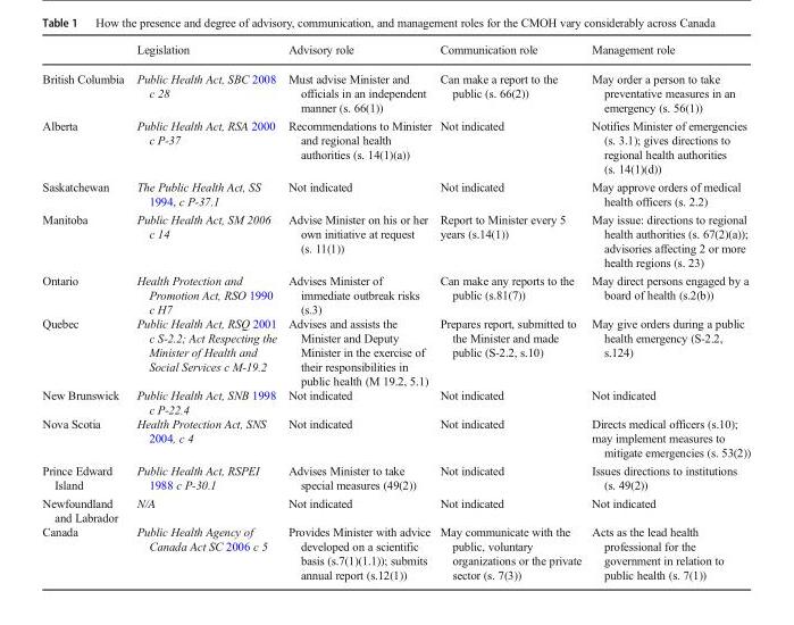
<table><thead><tr><td></td><td>Legislation</td><td>Advisory role</td><td>Communication role</td><td>Management role</td></tr></thead><tbody><tr><td>British Columbia</td><td>Public Health Act, SBC 2008 c 28</td><td>Must advise Minister and officials in an independent manner (s. 66(1))</td><td>Can make a report to the public (s. 66(2))</td><td>May order a person to take preventative measures in an emergency (s. 56(1))</td></tr><tr><td>Alberta</td><td>Public Health Act, RSA 2000 c P-37</td><td>Recommendations to Minister and regional health authorities (s. 14(1)(a))</td><td>Not indicated</td><td>Notifies Minister of emergencies (s. 3.1); gives directions to regional health authorities (s. 14(1)(d))</td></tr><tr><td>Saskatchewan</td><td>The Public Health Act, SS 1994, c P-37.1</td><td>Not indicated</td><td>Not indicated</td><td>May approve orders of medical health officers (s. 2.2)</td></tr><tr><td>Manitoba</td><td>Public Health Act, SM 2006 c 14</td><td>Advise Minister on his or her own initiative at request (s. 11(1))</td><td>Report to Minister every 5 years (s.14(1))</td><td>May issue: directions to regional health authorities (s. 67(2)(a)); advisories affecting 2 or more health regions (s. 23)</td></tr><tr><td>Ontario</td><td>Health Protection and Promotion Act, RSO 1990 c H7</td><td>Advises Minister of immediate outbreak risks (s.3)</td><td>Can make any reports to the public (s.81(7))</td><td>May direct persons engaged by a board of health (s.2(b))</td></tr><tr><td>Quebec</td><td>Public Health Act, RSQ 2001 c S-2.2; Act Respecting the Minister of Health and Social Services c M-19.2</td><td>Advises and assists the Minister and Deputy Minister in the exercise of their responsibilities in public health (M 19.2, 5.1)</td><td>Prepares report, submitted to the Minister and made public (S-2.2, s.10)</td><td>May give orders during a public health emergency (S-2.2, s.124)</td></tr><tr><td>New Brunswick</td><td>Public Health Act, SNB 1998 c P-22.4</td><td>Not indicated</td><td>Not indicated</td><td>Not indicated</td></tr><tr><td>Nova Scotia</td><td>Health Protection Act, SNS 2004, c 4</td><td>Not indicated</td><td>Not indicated</td><td>Directs medical officers (s.10); may implement measures to mitigate emergencies (s. 53(2))</td></tr><tr><td>Prince Edward Island</td><td>Public Health Act, RSPEI 1988 c P-30.1</td><td>Advises Minister to take special measures (49(2))</td><td>Not indicated</td><td>Issues directions to institutions (s. 49(2))</td></tr><tr><td>Newfoundland and Labrador</td><td>N/A</td><td>Not indicated</td><td>Not indicated</td><td>Not indicated</td></tr><tr><td>Canada</td><td>Public Health Agency of Canada Act SC 2006 c 5</td><td>Provides Minister with advice developed on a scientific basis (s.7(1)(1.1)); submits annual report (s.12(1))</td><td>May communicate with the public, voluntary organizations or the private sector (s. 7(3))</td><td>Acts as the lead health professional for the government in relation to public health (s. 7(1))</td></tr></tbody></table>